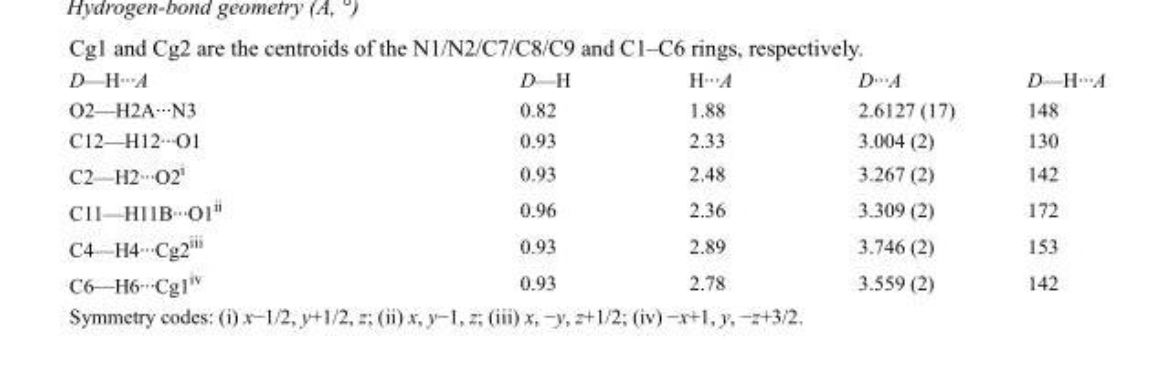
<table><tbody><tr><td>D—H···A</td><td>D—H</td><td>H···A</td><td>D···A</td><td>D—H···A</td></tr><tr><td>O2—H2A···N3</td><td>0.82</td><td>1.88</td><td>2.6127 (17)</td><td>148</td></tr><tr><td>C12—H12···O1</td><td>0.93</td><td>2.33</td><td>3.004 (2)</td><td>130</td></tr><tr><td>C2—H2···O2<sup>i</sup></td><td>0.93</td><td>2.48</td><td>3.267 (2)</td><td>142</td></tr><tr><td>C11—H11B···O1<sup>ii</sup></td><td>0.96</td><td>2.36</td><td>3.309 (2)</td><td>172</td></tr><tr><td>C4—H4···Cg2<sup>iii</sup></td><td>0.93</td><td>2.89</td><td>3.746 (2)</td><td>153</td></tr><tr><td>C6—H6···Cg1<sup>iv</sup></td><td>0.93</td><td>2.78</td><td>3.559 (2)</td><td>142</td></tr></tbody></table>